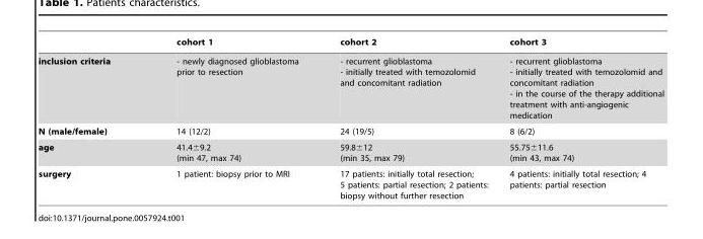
<table><thead><tr><td></td><td>cohort 1</td><td>cohort 2</td><td>cohort 3</td></tr></thead><tbody><tr><td>inclusion criteria</td><td>- newly diagnosed glioblastoma prior to resection</td><td>- recurrent glioblastoma - initially treated with temozolomid and concomitant radiation</td><td>- recurrent glioblastoma - initially treated with temozolomid and concomitant radiation - in the course of the therapy additional treatment with anti-angiogenic medication</td></tr><tr><td>N (male/female)</td><td>14 (12/2)</td><td>24 (19/5)</td><td>8 (6/2)</td></tr><tr><td>age</td><td>41.4±9.2 (min 47, max 74)</td><td>59.8±12 (min 35, max 79)</td><td>55.75±11.6 (min 43, max 74)</td></tr><tr><td>surgery</td><td>1 patient: biopsy prior to MRI</td><td>17 patients: initially total resection; 5 patients: partial resection; 2 patients: biopsy without further resection</td><td>4 patients: initially total resection; 4 patients: partial resection</td></tr></tbody></table>